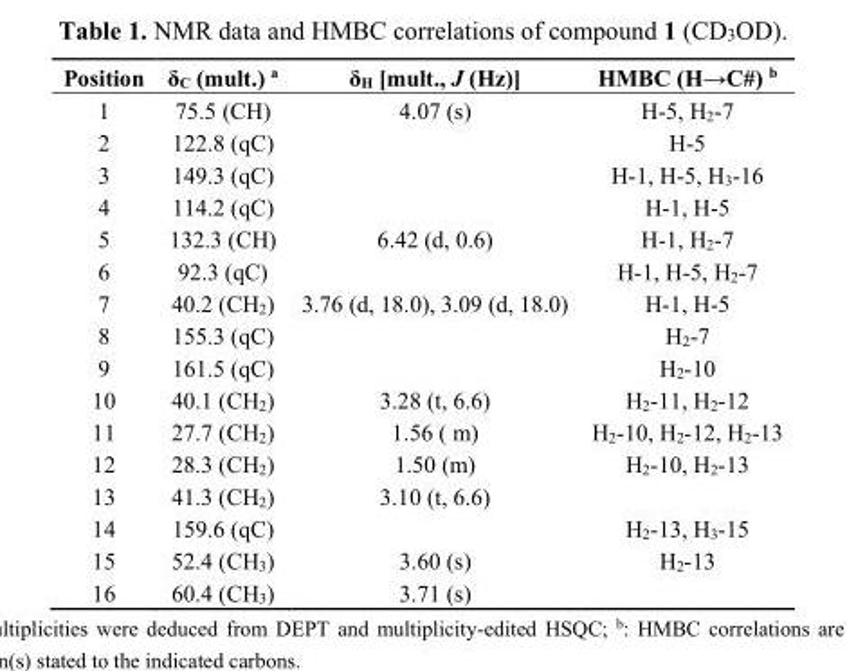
<table><thead><tr><td>Position</td><td>δ<sub>C</sub> (mult.) <sup>a</sup></td><td>δ<sub>H</sub> [mult., J (Hz)]</td><td>HMBC (H→C#) <sup>b</sup></td></tr></thead><tbody><tr><td>1</td><td>75.5 (CH)</td><td>4.07 (s)</td><td>H-5, H<sub>2</sub>-7</td></tr><tr><td>2</td><td>122.8 (qC)</td><td></td><td>H-5</td></tr><tr><td>3</td><td>149.3 (qC)</td><td></td><td>H-1, H-5, H<sub>3</sub>-16</td></tr><tr><td>4</td><td>114.2 (qC)</td><td></td><td>H-1, H-5</td></tr><tr><td>5</td><td>132.3 (CH)</td><td>6.42 (d, 0.6)</td><td>H-1, H<sub>2</sub>-7</td></tr><tr><td>6</td><td>92.3 (qC)</td><td></td><td>H-1, H-5, H<sub>2</sub>-7</td></tr><tr><td>7</td><td>40.2 (CH<sub>2</sub>)</td><td>3.76 (d, 18.0), 3.09 (d, 18.0)</td><td>H-1, H-5</td></tr><tr><td>8</td><td>155.3 (qC)</td><td></td><td>H<sub>2</sub>-7</td></tr><tr><td>9</td><td>161.5 (qC)</td><td></td><td>H<sub>2</sub>-10</td></tr><tr><td>10</td><td>40.1 (CH<sub>2</sub>)</td><td>3.28 (t, 6.6)</td><td>H<sub>2</sub>-11, H<sub>2</sub>-12</td></tr><tr><td>11</td><td>27.7 (CH<sub>2</sub>)</td><td>1.56 ( m)</td><td>H<sub>2</sub>-10, H<sub>2</sub>-12, H<sub>2</sub>-13</td></tr><tr><td>12</td><td>28.3 (CH<sub>2</sub>)</td><td>1.50 (m)</td><td>H<sub>2</sub>-10, H<sub>2</sub>-13</td></tr><tr><td>13</td><td>41.3 (CH<sub>2</sub>)</td><td>3.10 (t, 6.6)</td><td></td></tr><tr><td>14</td><td>159.6 (qC)</td><td></td><td>H<sub>2</sub>-13, H<sub>3</sub>-15</td></tr><tr><td>15</td><td>52.4 (CH<sub>3</sub>)</td><td>3.60 (s)</td><td>H<sub>2</sub>-13</td></tr><tr><td>16</td><td>60.4 (CH<sub>3</sub>)</td><td>3.71 (s)</td><td></td></tr></tbody></table>